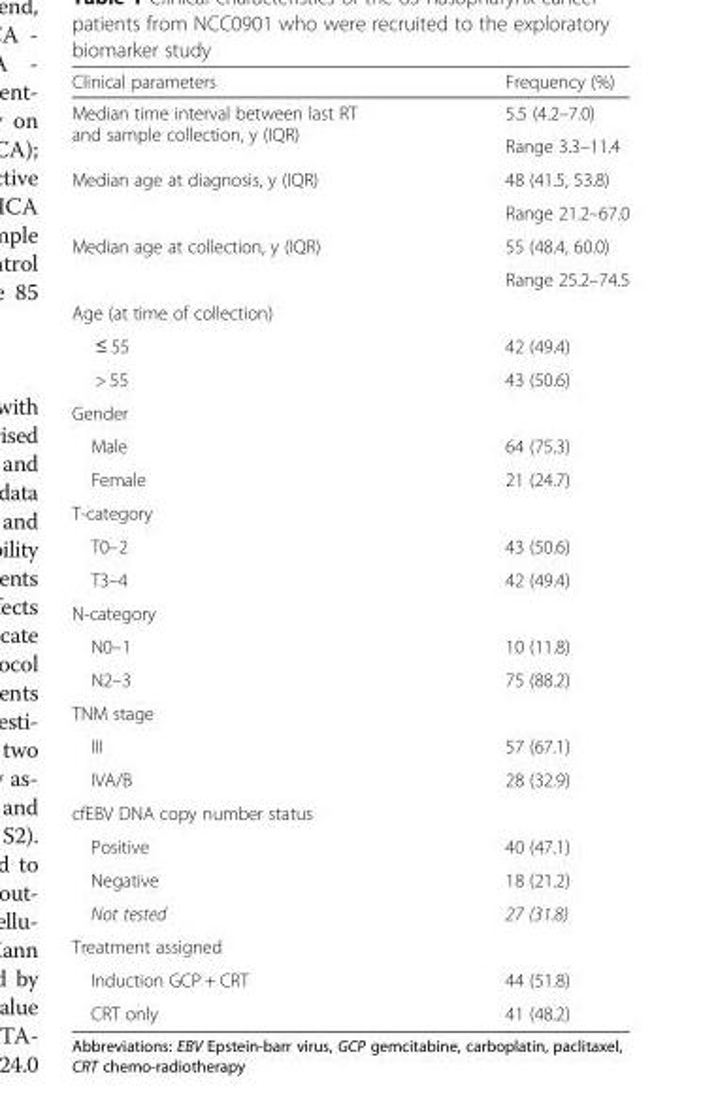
<table><thead><tr><td>Clinical parameters</td><td>Frequency (%)</td></tr></thead><tbody><tr><td rowspan="2">Median time interval between last RT and sample collection, y (IQR)</td><td>5.5 (4.2–7.0)</td></tr><tr><td>Range 3.3–11.4</td></tr><tr><td rowspan="2">Median age at diagnosis, y (IQR)</td><td>48 (41.5, 53.8)</td></tr><tr><td>Range 21.2–67.0</td></tr><tr><td rowspan="2">Median age at collection, y (IQR)</td><td>55 (48.4, 60.0)</td></tr><tr><td>Range 25.2–74.5</td></tr><tr><td colspan="2">Age (at time of collection)</td></tr><tr><td>≤ 55</td><td>42 (49.4)</td></tr><tr><td>&gt; 55</td><td>43 (50.6)</td></tr><tr><td colspan="2">Gender</td></tr><tr><td>Male</td><td>64 (75.3)</td></tr><tr><td>Female</td><td>21 (24.7)</td></tr><tr><td colspan="2">T-category</td></tr><tr><td>T0–2</td><td>43 (50.6)</td></tr><tr><td>T3–4</td><td>42 (49.4)</td></tr><tr><td colspan="2">N-category</td></tr><tr><td>N0–1</td><td>10 (11.8)</td></tr><tr><td>N2–3</td><td>75 (88.2)</td></tr><tr><td colspan="2">TNM stage</td></tr><tr><td>III</td><td>57 (67.1)</td></tr><tr><td>IVA/B</td><td>28 (32.9)</td></tr><tr><td colspan="2">cfEBV DNA copy number status</td></tr><tr><td>Positive</td><td>40 (47.1)</td></tr><tr><td>Negative</td><td>18 (21.2)</td></tr><tr><td>Not tested</td><td>27 (31.8)</td></tr><tr><td colspan="2">Treatment assigned</td></tr><tr><td>Induction GCP + CRT</td><td>44 (51.8)</td></tr><tr><td>CRT only</td><td>41 (48.2)</td></tr></tbody></table>